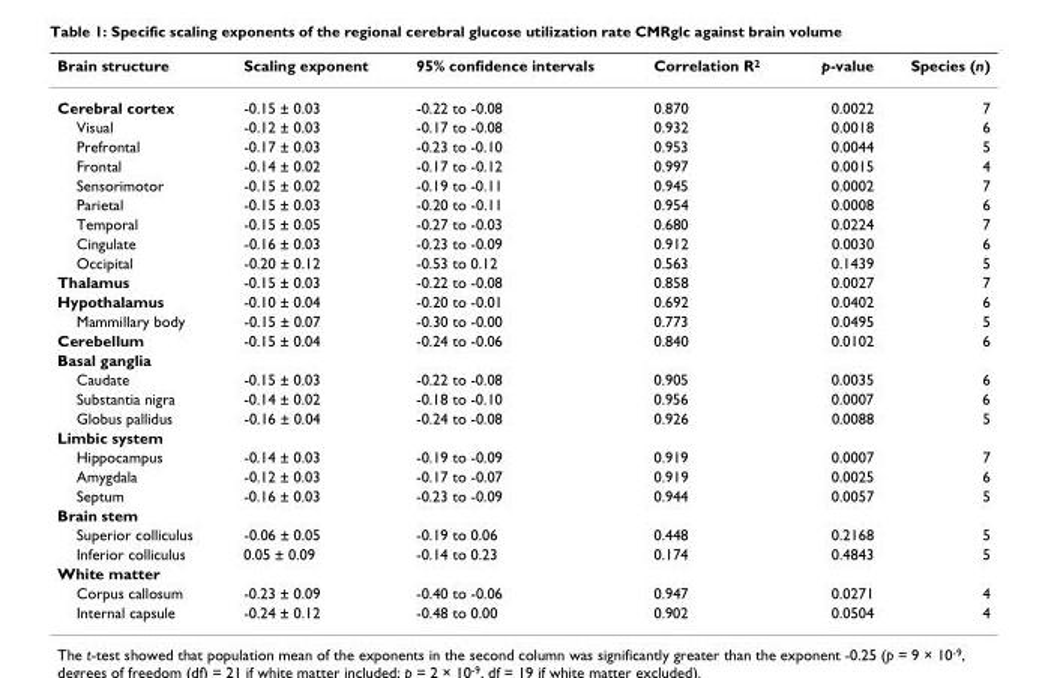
<table><thead><tr><td>Brain structure</td><td>Scaling exponent</td><td>95% confidence intervals</td><td>Correlation R2</td><td>p-value</td><td>Species (n)</td></tr></thead><tbody><tr><td>Cerebral cortex</td><td>-0.15 ± 0.03</td><td>-0.22 to -0.08</td><td>0.870</td><td>0.0022</td><td>7</td></tr><tr><td>Visual</td><td>-0.12 ± 0.03</td><td>-0.17 to -0.08</td><td>0.932</td><td>0.0018</td><td>6</td></tr><tr><td>Prefrontal</td><td>-0.17 ± 0.03</td><td>-0.23 to -0.10</td><td>0.953</td><td>0.0044</td><td>5</td></tr><tr><td>Frontal</td><td>-0.14 ± 0.02</td><td>-0.17 to -0.12</td><td>0.997</td><td>0.0015</td><td>4</td></tr><tr><td>Sensorimotor</td><td>-0.15 ± 0.02</td><td>-0.19 to -0.11</td><td>0.945</td><td>0.0002</td><td>7</td></tr><tr><td>Parietal</td><td>-0.15 ± 0.03</td><td>-0.20 to -0.11</td><td>0.954</td><td>0.0008</td><td>6</td></tr><tr><td>Temporal</td><td>-0.15 ± 0.05</td><td>-0.27 to -0.03</td><td>0.680</td><td>0.0224</td><td>7</td></tr><tr><td>Cingulate</td><td>-0.16 ± 0.03</td><td>-0.23 to -0.09</td><td>0.912</td><td>0.0030</td><td>6</td></tr><tr><td>Occipital</td><td>-0.20 ± 0.12</td><td>-0.53 to 0.12</td><td>0.563</td><td>0.1439</td><td>5</td></tr><tr><td>Thalamus</td><td>-0.15 ± 0.03</td><td>-0.22 to -0.08</td><td>0.858</td><td>0.0027</td><td>7</td></tr><tr><td>Hypothalamus</td><td>-0.10 ± 0.04</td><td>-0.20 to -0.01</td><td>0.692</td><td>0.0402</td><td>6</td></tr><tr><td>Mammillary body</td><td>-0.15 ± 0.07</td><td>-0.30 to -0.00</td><td>0.773</td><td>0.0495</td><td>5</td></tr><tr><td>Cerebellum</td><td>-0.15 ± 0.04</td><td>-0.24 to -0.06</td><td>0.840</td><td>0.0102</td><td>6</td></tr><tr><td colspan="6">Basal ganglia</td></tr><tr><td>Caudate</td><td>-0.15 ± 0.03</td><td>-0.22 to -0.08</td><td>0.905</td><td>0.0035</td><td>6</td></tr><tr><td>Substantia nigra</td><td>-0.14 ± 0.02</td><td>-0.18 to -0.10</td><td>0.956</td><td>0.0007</td><td>6</td></tr><tr><td>Globus pallidus</td><td>-0.16 ± 0.04</td><td>-0.24 to -0.08</td><td>0.926</td><td>0.0088</td><td>5</td></tr><tr><td colspan="6">Limbic system</td></tr><tr><td>Hippocampus</td><td>-0.14 ± 0.03</td><td>-0.19 to -0.09</td><td>0.919</td><td>0.0007</td><td>7</td></tr><tr><td>Amygdala</td><td>-0.12 ± 0.03</td><td>-0.17 to -0.07</td><td>0.919</td><td>0.0025</td><td>6</td></tr><tr><td>Septum</td><td>-0.16 ± 0.03</td><td>-0.23 to -0.09</td><td>0.944</td><td>0.0057</td><td>5</td></tr><tr><td colspan="6">Brain stem</td></tr><tr><td>Superior colliculus</td><td>-0.06 ± 0.05</td><td>-0.19 to 0.06</td><td>0.448</td><td>0.2168</td><td>5</td></tr><tr><td>Inferior colliculus</td><td>0.05 ± 0.09</td><td>-0.14 to 0.23</td><td>0.174</td><td>0.4843</td><td>5</td></tr><tr><td colspan="6">White matter</td></tr><tr><td>Corpus callosum</td><td>-0.23 ± 0.09</td><td>-0.40 to -0.06</td><td>0.947</td><td>0.0271</td><td>4</td></tr><tr><td>Internal capsule</td><td>-0.24 ± 0.12</td><td>-0.48 to 0.00</td><td>0.902</td><td>0.0504</td><td>4</td></tr></tbody></table>